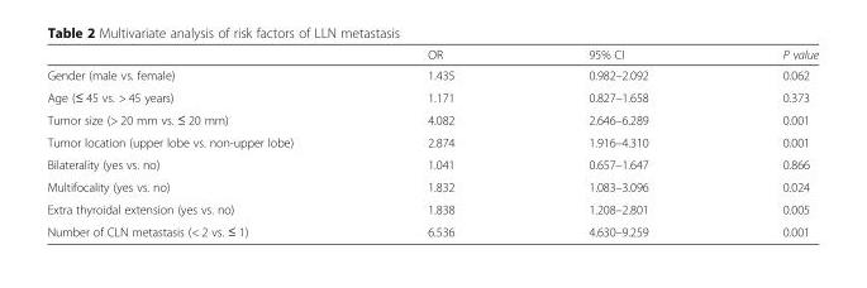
<table><thead><tr><td></td><td>OR</td><td>95% CI</td><td>P value</td></tr></thead><tbody><tr><td>Gender (male vs. female)</td><td>1.435</td><td>0.982–2.092</td><td>0.062</td></tr><tr><td>Age (≤ 45 vs. &gt; 45 years)</td><td>1.171</td><td>0.827–1.658</td><td>0.373</td></tr><tr><td>Tumor size (&gt; 20 mm vs. ≤ 20 mm)</td><td>4.082</td><td>2.646–6.289</td><td>0.001</td></tr><tr><td>Tumor location (upper lobe vs. non-upper lobe)</td><td>2.874</td><td>1.916–4.310</td><td>0.001</td></tr><tr><td>Bilaterality (yes vs. no)</td><td>1.041</td><td>0.657–1.647</td><td>0.866</td></tr><tr><td>Multifocality (yes vs. no)</td><td>1.832</td><td>1.083–3.096</td><td>0.024</td></tr><tr><td>Extra thyroidal extension (yes vs. no)</td><td>1.838</td><td>1.208–2.801</td><td>0.005</td></tr><tr><td>Number of CLN metastasis (&lt; 2 vs. ≤ 1)</td><td>6.536</td><td>4.630–9.259</td><td>0.001</td></tr></tbody></table>